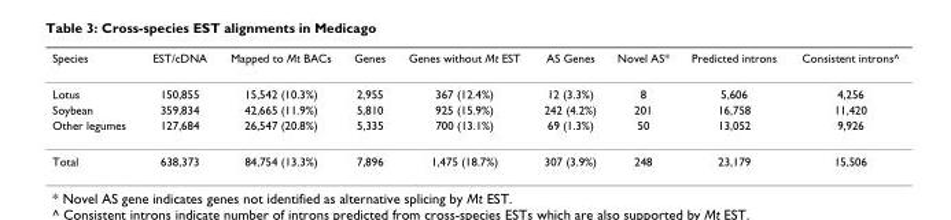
<table><thead><tr><td>Species</td><td>EST/cDNA</td><td>Mapped to Mt BACs</td><td>Genes</td><td>Genes without Mt EST</td><td>AS Genes</td><td>Novel AS*</td><td>Predicted introns</td><td>Consistent introns^</td></tr></thead><tbody><tr><td>Lotus</td><td>150,855</td><td>15,542 (10.3%)</td><td>2,955</td><td>367 (12.4%)</td><td>12 (3.3%)</td><td>8</td><td>5,606</td><td>4,256</td></tr><tr><td>Soybean</td><td>359,834</td><td>42,665 (11.9%)</td><td>5,810</td><td>925 (15.9%)</td><td>242 (4.2%)</td><td>201</td><td>16,758</td><td>11,420</td></tr><tr><td>Other legumes</td><td>127,684</td><td>26,547 (20.8%)</td><td>5,335</td><td>700 (13.1%)</td><td>69 (1.3%)</td><td>50</td><td>13,052</td><td>9,926</td></tr><tr><td>Total</td><td>638,373</td><td>84,754 (13.3%)</td><td>7,896</td><td>1,475 (18.7%)</td><td>307 (3.9%)</td><td>248</td><td>23,179</td><td>15,506</td></tr></tbody></table>